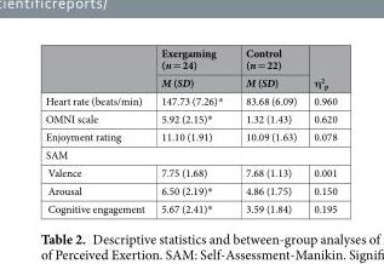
<table><thead><tr><td rowspan="2"></td><td rowspan="2">Exergaming (n = 24) M (SD)</td><td rowspan="2">Control (n = 22) M (SD)</td><td rowspan="2">η<sup>2</sup> <sub>p</sub></td></tr><tr></tr></thead><tbody><tr><td>Heart rate (beats/min)</td><td>147.73 (7.26)*</td><td>83.68 (6.09)</td><td>0.960</td></tr><tr><td>OMNI scale</td><td>5.92 (2.15)*</td><td>1.32 (1.43)</td><td>0.620</td></tr><tr><td>Enjoyment rating</td><td>11.10 (1.91)</td><td>10.09 (1.63)</td><td>0.078</td></tr><tr><td colspan="4">SAM</td></tr><tr><td>Valence</td><td>7.75 (1.68)</td><td>7.68 (1.13)</td><td>0.001</td></tr><tr><td>Arousal</td><td>6.50 (2.19)*</td><td>4.86 (1.75)</td><td>0.150</td></tr><tr><td>Cognitive engagement</td><td>5.67 (2.41)*</td><td>3.59 (1.84)</td><td>0.195</td></tr></tbody></table>